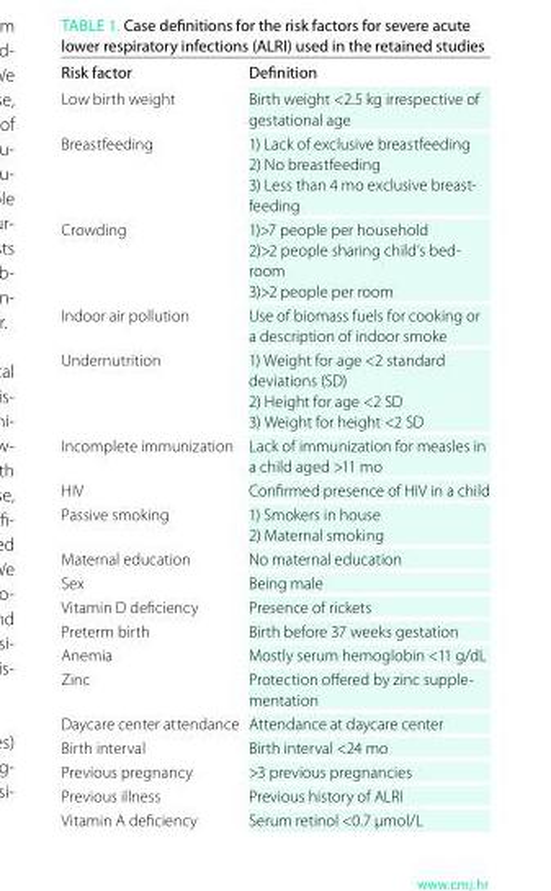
<table><thead><tr><td>Risk factor</td><td>Definition</td></tr></thead><tbody><tr><td>Low birth weight</td><td>Birth weight &lt;2.5 kg irrespective of gestational age</td></tr><tr><td>Breastfeeding</td><td>1) Lack of exclusive breastfeeding 2) No breastfeeding 3) Less than 4 mo exclusive breast- feeding</td></tr><tr><td>Crowding</td><td>1)&gt;7 people per household 2)&gt;2 people sharing child’s bed- room 3)&gt;2 people per room</td></tr><tr><td>Indoor air pollution</td><td>Use of biomass fuels for cooking or a description of indoor smoke</td></tr><tr><td>Undernutrition</td><td>1) Weight for age &lt;2 standard deviations (SD) 2) Height for age &lt;2 SD 3) Weight for height &lt;2 SD</td></tr><tr><td>Incomplete immunization</td><td>Lack of immunization for measles in a child aged &gt;11 mo</td></tr><tr><td>HIV</td><td>Confirmed presence of HIV in a child</td></tr><tr><td>Passive smoking</td><td>1) Smokers in house 2) Maternal smoking</td></tr><tr><td>Maternal education</td><td>No maternal education</td></tr><tr><td>Sex</td><td>Being male</td></tr><tr><td>Vitamin D deficiency</td><td>Presence of rickets</td></tr><tr><td>Preterm birth</td><td>Birth before 37 weeks gestation</td></tr><tr><td>Anemia</td><td>Mostly serum hemoglobin &lt;11 g/dL</td></tr><tr><td>Zinc</td><td>Protection offered by zinc supple- mentation</td></tr><tr><td>Daycare center attendance</td><td>Attendance at daycare center</td></tr><tr><td>Birth interval</td><td>Birth interval &lt;24 mo</td></tr><tr><td>Previous pregnancy</td><td>&gt;3 previous pregnancies</td></tr><tr><td>Previous illness</td><td>Previous history of ALRI</td></tr><tr><td>Vitamin A deficiency</td><td>Serum retinol &lt;0.7 µmol/L</td></tr></tbody></table>